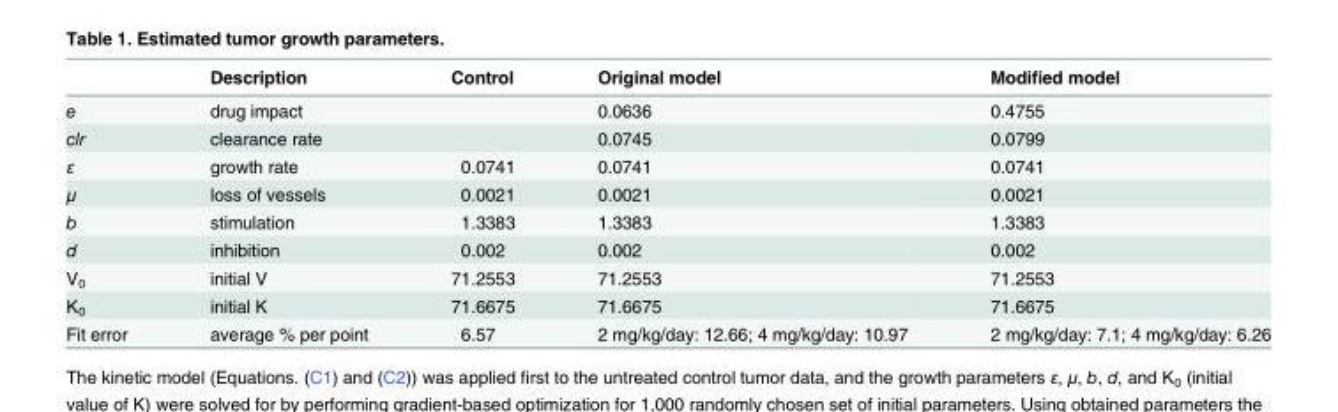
<table><thead><tr><td></td><td>Description</td><td>Control</td><td>Original model</td><td>Modified model</td></tr></thead><tbody><tr><td>e</td><td>drug impact</td><td></td><td>0.0636</td><td>0.4755</td></tr><tr><td>clr</td><td>clearance rate</td><td></td><td>0.0745</td><td>0.0799</td></tr><tr><td>ε</td><td>growth rate</td><td>0.0741</td><td>0.0741</td><td>0.0741</td></tr><tr><td>μ</td><td>loss of vessels</td><td>0.0021</td><td>0.0021</td><td>0.0021</td></tr><tr><td>b</td><td>stimulation</td><td>1.3383</td><td>1.3383</td><td>1.3383</td></tr><tr><td>d</td><td>inhibition</td><td>0.002</td><td>0.002</td><td>0.002</td></tr><tr><td>V<sub>0</sub></td><td>initial V</td><td>71.2553</td><td>71.2553</td><td>71.2553</td></tr><tr><td>K<sub>0</sub></td><td>initial K</td><td>71.6675</td><td>71.6675</td><td>71.6675</td></tr><tr><td>Fit error</td><td>average % per point</td><td>6.57</td><td>2 mg/kg/day: 12.66; 4 mg/kg/day: 10.97</td><td>2 mg/kg/day: 7.1; 4 mg/kg/day: 6.26</td></tr></tbody></table>